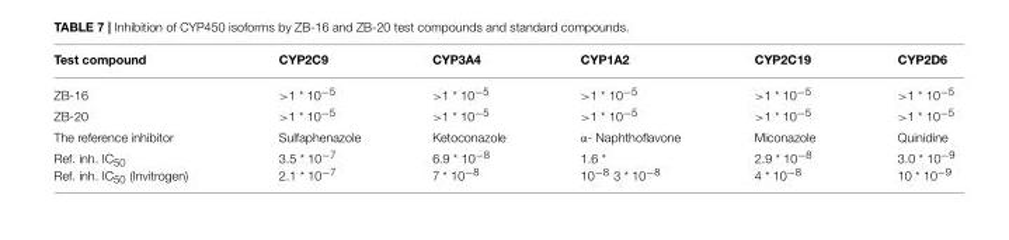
<table><thead><tr><td>Test compound</td><td>CYP2C9</td><td>CYP3A4</td><td>CYP1A2</td><td>CYP2C19</td><td>CYP2D6</td></tr></thead><tbody><tr><td>ZB-16</td><td>&gt;1 * 10<sup>−5</sup></td><td>&gt;1 * 10<sup>−5</sup></td><td>&gt;1 * 10<sup>−5</sup></td><td>&gt;1 * 10<sup>−5</sup></td><td>&gt;1 * 10<sup>−5</sup></td></tr><tr><td>ZB-20</td><td>&gt;1 * 10<sup>−5</sup></td><td>&gt;1 * 10<sup>−5</sup></td><td>&gt;1 * 10<sup>−5</sup></td><td>&gt;1 * 10<sup>−5</sup></td><td>&gt;1 * 10<sup>−5</sup></td></tr><tr><td>The reference inhibitor</td><td>Sulfaphenazole</td><td>Ketoconazole</td><td>α- Naphthoflavone</td><td>Miconazole</td><td>Quinidine</td></tr><tr><td>Ref. inh. IC<sub>50</sub> Ref. inh. IC<sub>50</sub> (Invitrogen)</td><td>3.5 * 10<sup>−7</sup> 2.1 * 10<sup>−7</sup></td><td>6.9 * 10<sup>−8</sup> 7 * 10<sup>−8</sup></td><td>1.6 * 10<sup>−8</sup> 3 * 10<sup>−8</sup></td><td>2.9 * 10<sup>−8</sup> 4 * 10<sup>−8</sup></td><td>3.0 * 10<sup>−9</sup> 10 * 10<sup>−9</sup></td></tr></tbody></table>